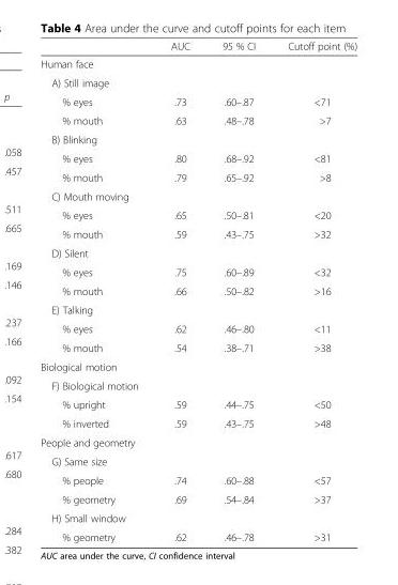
<table><thead><tr><td></td><td>AUC</td><td>95 % CI</td><td>Cutoff point (%)</td></tr></thead><tbody><tr><td colspan="4">Human face</td></tr><tr><td colspan="4">A) Still image</td></tr><tr><td>% eyes</td><td>.73</td><td>.60–.87</td><td>&lt;71</td></tr><tr><td>% mouth</td><td>.63</td><td>.48–.78</td><td>&gt;7</td></tr><tr><td colspan="4">B) Blinking</td></tr><tr><td>% eyes</td><td>.80</td><td>.68–.92</td><td>&lt;81</td></tr><tr><td>% mouth</td><td>.79</td><td>.65–.92</td><td>&gt;8</td></tr><tr><td colspan="4">C) Mouth moving</td></tr><tr><td>% eyes</td><td>.65</td><td>.50–.81</td><td>&lt;20</td></tr><tr><td>% mouth</td><td>.59</td><td>.43–.75</td><td>&gt;32</td></tr><tr><td colspan="4">D) Silent</td></tr><tr><td>% eyes</td><td>.75</td><td>.60–.89</td><td>&lt;32</td></tr><tr><td>% mouth</td><td>.66</td><td>.50–.82</td><td>&gt;16</td></tr><tr><td colspan="4">E) Talking</td></tr><tr><td>% eyes</td><td>.62</td><td>.46–.80</td><td>&lt;11</td></tr><tr><td>% mouth</td><td>.54</td><td>.38–.71</td><td>&gt;38</td></tr><tr><td colspan="4">Biological motion</td></tr><tr><td colspan="4">F) Biological motion</td></tr><tr><td>% upright</td><td>.59</td><td>.44–.75</td><td>&lt;50</td></tr><tr><td>% inverted</td><td>.59</td><td>.43–.75</td><td>&gt;48</td></tr><tr><td colspan="4">People and geometry</td></tr><tr><td colspan="4">G) Same size</td></tr><tr><td>% people</td><td>.74</td><td>.60–.88</td><td>&lt;57</td></tr><tr><td>% geometry</td><td>.69</td><td>.54–.84</td><td>&gt;37</td></tr><tr><td colspan="4">H) Small window</td></tr><tr><td>% geometry</td><td>.62</td><td>.46–.78</td><td>&gt;31</td></tr></tbody></table>